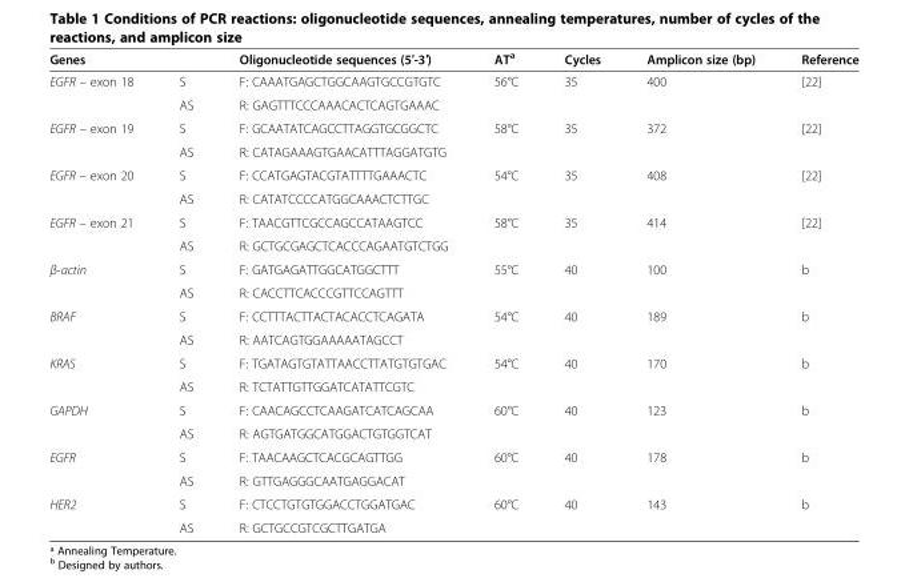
<table><thead><tr><td>Genes</td><td></td><td>Oligonucleotide sequences (5′-3′)</td><td>AT<sup>a</sup></td><td>Cycles</td><td>Amplicon size (bp)</td><td>Reference</td></tr></thead><tbody><tr><td rowspan="2">EGFR – exon 18</td><td>S</td><td>F: CAAATGAGCTGGCAAGTGCCGTGTC</td><td rowspan="2">56°C</td><td rowspan="2">35</td><td rowspan="2">400</td><td rowspan="2">[22]</td></tr><tr><td>AS</td><td>R: GAGTTTCCCAAACACTCAGTGAAAC</td></tr><tr><td rowspan="2">EGFR – exon 19</td><td>S</td><td>F: GCAATATCAGCCTTAGGTGCGGCTC</td><td rowspan="2">58°C</td><td rowspan="2">35</td><td rowspan="2">372</td><td rowspan="2">[22]</td></tr><tr><td>AS</td><td>R: CATAGAAAGTGAACATTTAGGATGTG</td></tr><tr><td rowspan="2">EGFR – exon 20</td><td>S</td><td>F: CCATGAGTACGTATTTTGAAACTC</td><td rowspan="2">54°C</td><td rowspan="2">35</td><td rowspan="2">408</td><td rowspan="2">[22]</td></tr><tr><td>AS</td><td>R: CATATCCCCATGGCAAACTCTTGC</td></tr><tr><td rowspan="2">EGFR – exon 21</td><td>S</td><td>F: TAACGTTCGCCAGCCATAAGTCC</td><td rowspan="2">58°C</td><td rowspan="2">35</td><td rowspan="2">414</td><td rowspan="2">[22]</td></tr><tr><td>AS</td><td>R: GCTGCGAGCTCACCCAGAATGTCTGG</td></tr><tr><td rowspan="2">β-actin</td><td>S</td><td>F: GATGAGATTGGCATGGCTTT</td><td rowspan="2">55°C</td><td rowspan="2">40</td><td rowspan="2">100</td><td rowspan="2">b</td></tr><tr><td>AS</td><td>R: CACCTTCACCCGTTCCAGTTT</td></tr><tr><td rowspan="2">BRAF</td><td>S</td><td>F: CCTTTACTTACTACACCTCAGATA</td><td rowspan="2">54°C</td><td rowspan="2">40</td><td rowspan="2">189</td><td rowspan="2">b</td></tr><tr><td>AS</td><td>R: AATCAGTGGAAAAATAGCCT</td></tr><tr><td rowspan="2">KRAS</td><td>S</td><td>F: TGATAGTGTATTAACCTTATGTGTGAC</td><td rowspan="2">54°C</td><td rowspan="2">40</td><td rowspan="2">170</td><td rowspan="2">b</td></tr><tr><td>AS</td><td>R: TCTATTGTTGGATCATATTCGTC</td></tr><tr><td rowspan="2">GAPDH</td><td>S</td><td>F: CAACAGCCTCAAGATCATCAGCAA</td><td rowspan="2">60°C</td><td rowspan="2">40</td><td rowspan="2">123</td><td rowspan="2">b</td></tr><tr><td>AS</td><td>R: AGTGATGGCATGGACTGTGGTCAT</td></tr><tr><td rowspan="2">EGFR</td><td>S</td><td>F: TAACAAGCTCACGCAGTTGG</td><td rowspan="2">60°C</td><td rowspan="2">40</td><td rowspan="2">178</td><td rowspan="2">b</td></tr><tr><td>AS</td><td>R: GTTGAGGGCAATGAGGACAT</td></tr><tr><td rowspan="2">HER2</td><td>S</td><td>F: CTCCTGTGTGGACCTGGATGAC</td><td rowspan="2">60°C</td><td rowspan="2">40</td><td rowspan="2">143</td><td rowspan="2">b</td></tr><tr><td>AS</td><td>R: GCTGCCGTCGCTTGATGA</td></tr></tbody></table>